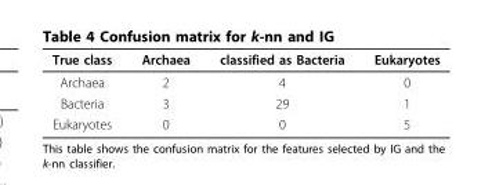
<table><thead><tr><td>True class</td><td>Archaea</td><td>classified as Bacteria</td><td>Eukaryotes</td></tr></thead><tbody><tr><td>Archaea</td><td>2</td><td>4</td><td>0</td></tr><tr><td>Bacteria</td><td>3</td><td>29</td><td>1</td></tr><tr><td>Eukaryotes</td><td>0</td><td>0</td><td>5</td></tr></tbody></table>